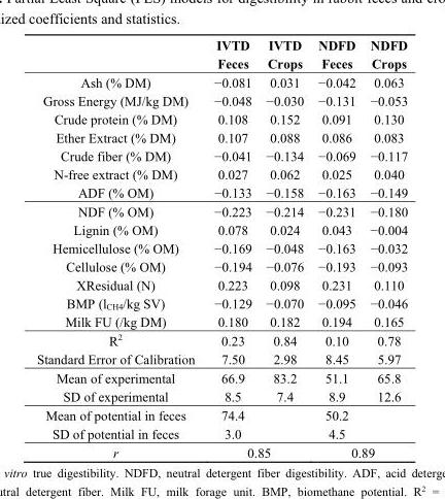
<table><thead><tr><td rowspan="2"></td><td rowspan="2">IVTD Feces</td><td rowspan="2">IVTD Crops</td><td rowspan="2">NDFD Feces</td><td rowspan="2">NDFD Crops</td></tr><tr></tr></thead><tbody><tr><td>Ash (% DM)</td><td>−0.081</td><td>0.031</td><td>−0.042</td><td>0.063</td></tr><tr><td>Gross Energy (MJ/kg DM)</td><td>−0.048</td><td>−0.030</td><td>−0.131</td><td>−0.053</td></tr><tr><td>Crude protein (% DM)</td><td>0.108</td><td>0.152</td><td>0.091</td><td>0.130</td></tr><tr><td>Ether Extract (% DM)</td><td>0.107</td><td>0.088</td><td>0.086</td><td>0.083</td></tr><tr><td>Crude fiber (% DM)</td><td>−0.041</td><td>−0.134</td><td>−0.069</td><td>−0.117</td></tr><tr><td>N-free extract (% DM)</td><td>0.027</td><td>0.062</td><td>0.025</td><td>0.040</td></tr><tr><td>ADF (% OM)</td><td>−0.133</td><td>−0.158</td><td>−0.163</td><td>−0.149</td></tr><tr><td>NDF (% OM)</td><td>−0.223</td><td>−0.214</td><td>−0.231</td><td>−0.180</td></tr><tr><td>Lignin (% OM)</td><td>0.078</td><td>0.024</td><td>0.043</td><td>−0.004</td></tr><tr><td>Hemicellulose (% OM)</td><td>−0.169</td><td>−0.048</td><td>−0.163</td><td>−0.032</td></tr><tr><td>Cellulose (% OM)</td><td>−0.194</td><td>−0.076</td><td>−0.193</td><td>−0.093</td></tr><tr><td>XResidual (N)</td><td>0.223</td><td>0.098</td><td>0.231</td><td>0.110</td></tr><tr><td>BMP (l<sub>CH4</sub>/kg SV)</td><td>−0.129</td><td>−0.070</td><td>−0.095</td><td>−0.046</td></tr><tr><td>Milk FU (/kg DM)</td><td>0.180</td><td>0.182</td><td>0.194</td><td>0.165</td></tr><tr><td>R<sup>2</sup></td><td>0.23</td><td>0.84</td><td>0.10</td><td>0.78</td></tr><tr><td>Standard Error of Calibration</td><td>7.50</td><td>2.98</td><td>8.45</td><td>5.97</td></tr><tr><td>Mean of experimental</td><td>66.9</td><td>83.2</td><td>51.1</td><td>65.8</td></tr><tr><td>SD of experimental</td><td>8.5</td><td>7.4</td><td>8.9</td><td>12.6</td></tr><tr><td>Mean of potential in feces</td><td>74.4</td><td></td><td>50.2</td><td></td></tr><tr><td>SD of potential in feces</td><td>3.0</td><td></td><td>4.5</td><td></td></tr><tr><td>r</td><td colspan="2">0.85</td><td colspan="2">0.89</td></tr></tbody></table>